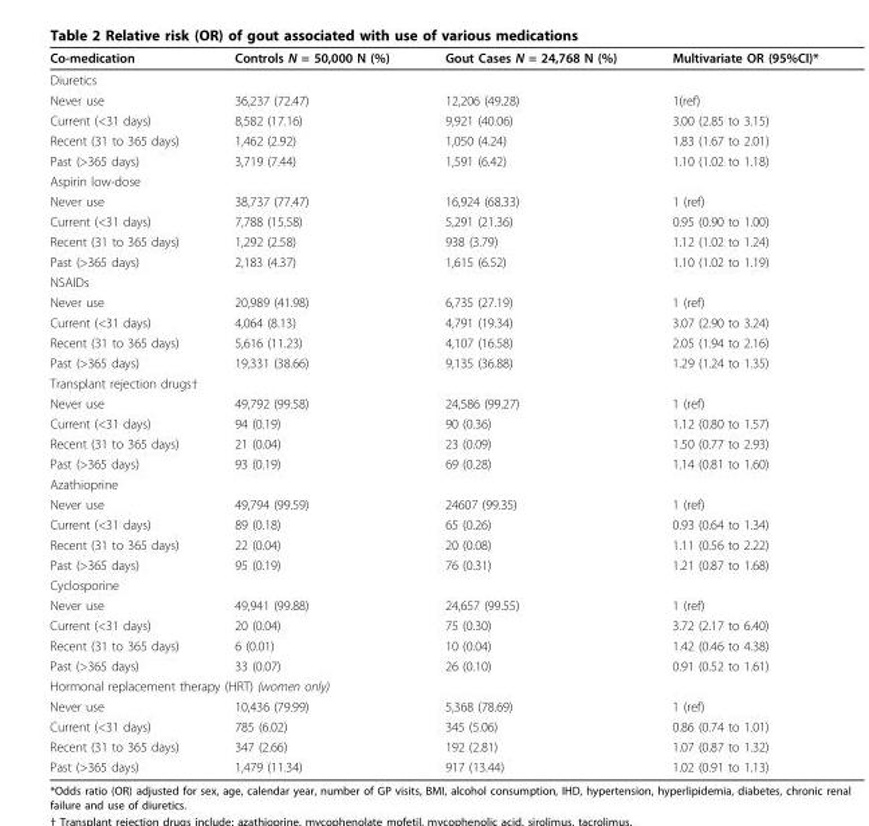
<table><thead><tr><td>Co-medication</td><td>Controls N = 50,000 N (%)</td><td>Gout Cases N = 24,768 N (%)</td><td>Multivariate OR (95%CI)*</td></tr></thead><tbody><tr><td colspan="4">Diuretics</td></tr><tr><td>Never use</td><td>36,237 (72.47)</td><td>12,206 (49.28)</td><td>1(ref)</td></tr><tr><td>Current (&lt;31 days)</td><td>8,582 (17.16)</td><td>9,921 (40.06)</td><td>3.00 (2.85 to 3.15)</td></tr><tr><td>Recent (31 to 365 days)</td><td>1,462 (2.92)</td><td>1,050 (4.24)</td><td>1.83 (1.67 to 2.01)</td></tr><tr><td>Past (&gt;365 days)</td><td>3,719 (7.44)</td><td>1,591 (6.42)</td><td>1.10 (1.02 to 1.18)</td></tr><tr><td colspan="4">Aspirin low-dose</td></tr><tr><td>Never use</td><td>38,737 (77.47)</td><td>16,924 (68.33)</td><td>1 (ref)</td></tr><tr><td>Current (&lt;31 days)</td><td>7,788 (15.58)</td><td>5,291 (21.36)</td><td>0.95 (0.90 to 1.00)</td></tr><tr><td>Recent (31 to 365 days)</td><td>1,292 (2.58)</td><td>938 (3.79)</td><td>1.12 (1.02 to 1.24)</td></tr><tr><td>Past (&gt;365 days)</td><td>2,183 (4.37)</td><td>1,615 (6.52)</td><td>1.10 (1.02 to 1.19)</td></tr><tr><td colspan="4">NSAIDs</td></tr><tr><td>Never use</td><td>20,989 (41.98)</td><td>6,735 (27.19)</td><td>1 (ref)</td></tr><tr><td>Current (&lt;31 days)</td><td>4,064 (8.13)</td><td>4,791 (19.34)</td><td>3.07 (2.90 to 3.24)</td></tr><tr><td>Recent (31 to 365 days)</td><td>5,616 (11.23)</td><td>4,107 (16.58)</td><td>2.05 (1.94 to 2.16)</td></tr><tr><td>Past (&gt;365 days)</td><td>19,331 (38.66)</td><td>9,135 (36.88)</td><td>1.29 (1.24 to 1.35)</td></tr><tr><td colspan="4">Transplant rejection drugs†</td></tr><tr><td>Never use</td><td>49,792 (99.58)</td><td>24,586 (99.27)</td><td>1 (ref)</td></tr><tr><td>Current (&lt;31 days)</td><td>94 (0.19)</td><td>90 (0.36)</td><td>1.12 (0.80 to 1.57)</td></tr><tr><td>Recent (31 to 365 days)</td><td>21 (0.04)</td><td>23 (0.09)</td><td>1.50 (0.77 to 2.93)</td></tr><tr><td>Past (&gt;365 days)</td><td>93 (0.19)</td><td>69 (0.28)</td><td>1.14 (0.81 to 1.60)</td></tr><tr><td colspan="4">Azathioprine</td></tr><tr><td>Never use</td><td>49,794 (99.59)</td><td>24607 (99.35)</td><td>1 (ref)</td></tr><tr><td>Current (&lt;31 days)</td><td>89 (0.18)</td><td>65 (0.26)</td><td>0.93 (0.64 to 1.34)</td></tr><tr><td>Recent (31 to 365 days)</td><td>22 (0.04)</td><td>20 (0.08)</td><td>1.11 (0.56 to 2.22)</td></tr><tr><td>Past (&gt;365 days)</td><td>95 (0.19)</td><td>76 (0.31)</td><td>1.21 (0.87 to 1.68)</td></tr><tr><td colspan="4">Cyclosporine</td></tr><tr><td>Never use</td><td>49,941 (99.88)</td><td>24,657 (99.55)</td><td>1 (ref)</td></tr><tr><td>Current (&lt;31 days)</td><td>20 (0.04)</td><td>75 (0.30)</td><td>3.72 (2.17 to 6.40)</td></tr><tr><td>Recent (31 to 365 days)</td><td>6 (0.01)</td><td>10 (0.04)</td><td>1.42 (0.46 to 4.38)</td></tr><tr><td>Past (&gt;365 days)</td><td>33 (0.07)</td><td>26 (0.10)</td><td>0.91 (0.52 to 1.61)</td></tr><tr><td colspan="4">Hormonal replacement therapy (HRT) (women only)</td></tr><tr><td>Never use</td><td>10,436 (79.99)</td><td>5,368 (78.69)</td><td>1 (ref)</td></tr><tr><td>Current (&lt;31 days)</td><td>785 (6.02)</td><td>345 (5.06)</td><td>0.86 (0.74 to 1.01)</td></tr><tr><td>Recent (31 to 365 days)</td><td>347 (2.66)</td><td>192 (2.81)</td><td>1.07 (0.87 to 1.32)</td></tr><tr><td>Past (&gt;365 days)</td><td>1,479 (11.34)</td><td>917 (13.44)</td><td>1.02 (0.91 to 1.13)</td></tr></tbody></table>